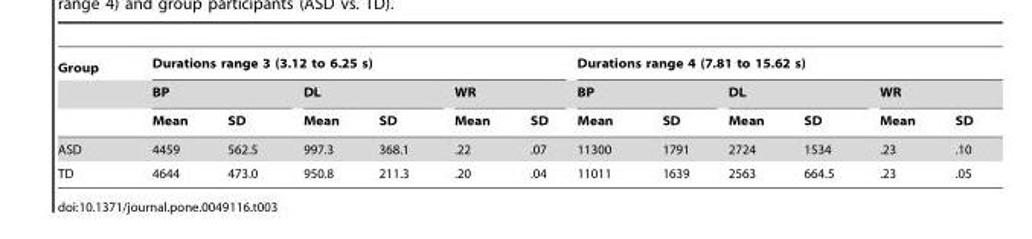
<table><thead><tr><td rowspan="3">Group</td><td colspan="6">Durations range 3 (3.12 to 6.25 s)</td><td colspan="6">Durations range 4 (7.81 to 15.62 s)</td></tr><tr><td colspan="2">BP</td><td colspan="2">DL</td><td colspan="2">WR</td><td colspan="2">BP</td><td colspan="2">DL</td><td colspan="2">WR</td></tr><tr><td>Mean</td><td>SD</td><td>Mean</td><td>SD</td><td>Mean</td><td>SD</td><td>Mean</td><td>SD</td><td>Mean</td><td>SD</td><td>Mean</td><td>SD</td></tr></thead><tbody><tr><td>ASD</td><td>4459</td><td>562.5</td><td>997.3</td><td>368.1</td><td>.22</td><td>.07</td><td>11300</td><td>1791</td><td>2724</td><td>1534</td><td>.23</td><td>.10</td></tr><tr><td>TD</td><td>4644</td><td>473.0</td><td>950.8</td><td>211.3</td><td>.20</td><td>.04</td><td>11011</td><td>1639</td><td>2563</td><td>664.5</td><td>.23</td><td>.05</td></tr></tbody></table>